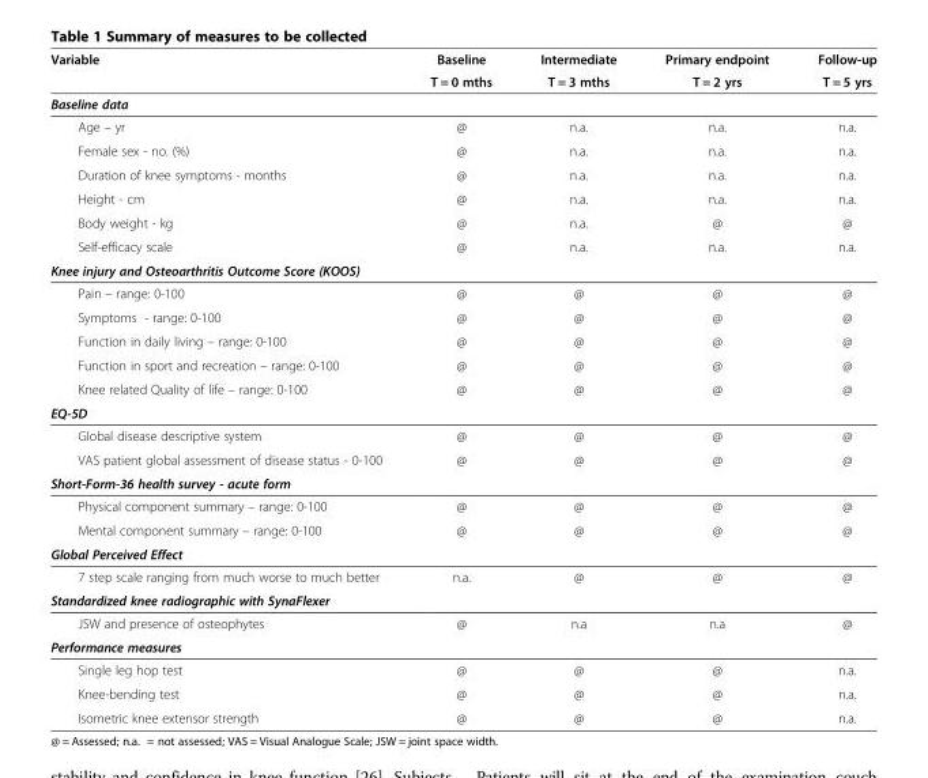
<table><thead><tr><td rowspan="2">Variable</td><td rowspan="2">Baseline T = 0 mths</td><td rowspan="2">Intermediate T = 3 mths</td><td rowspan="2">Primary endpoint T = 2 yrs</td><td rowspan="2">Follow-up T = 5 yrs</td></tr><tr></tr></thead><tbody><tr><td colspan="5">Baseline data</td></tr><tr><td>Age – yr</td><td>@</td><td>n.a.</td><td>n.a.</td><td>n.a.</td></tr><tr><td>Female sex - no. (%)</td><td>@</td><td>n.a.</td><td>n.a.</td><td>n.a.</td></tr><tr><td>Duration of knee symptoms - months</td><td>@</td><td>n.a.</td><td>n.a.</td><td>n.a.</td></tr><tr><td>Height - cm</td><td>@</td><td>n.a.</td><td>n.a.</td><td>n.a.</td></tr><tr><td>Body weight - kg</td><td>@</td><td>n.a.</td><td>@</td><td>@</td></tr><tr><td>Self-efficacy scale</td><td>@</td><td>n.a.</td><td>n.a.</td><td>n.a.</td></tr><tr><td colspan="5">Knee injury and Osteoarthritis Outcome Score (KOOS)</td></tr><tr><td>Pain – range: 0-100</td><td>@</td><td>@</td><td>@</td><td>@</td></tr><tr><td>Symptoms - range: 0-100</td><td>@</td><td>@</td><td>@</td><td>@</td></tr><tr><td>Function in daily living – range: 0-100</td><td>@</td><td>@</td><td>@</td><td>@</td></tr><tr><td>Function in sport and recreation – range: 0-100</td><td>@</td><td>@</td><td>@</td><td>@</td></tr><tr><td>Knee related Quality of life – range: 0-100</td><td>@</td><td>@</td><td>@</td><td>@</td></tr><tr><td colspan="5">EQ-5D</td></tr><tr><td>Global disease descriptive system</td><td>@</td><td>@</td><td>@</td><td>@</td></tr><tr><td>VAS patient global assessment of disease status - 0-100</td><td>@</td><td>@</td><td>@</td><td>@</td></tr><tr><td colspan="5">Short-Form-36 health survey - acute form</td></tr><tr><td>Physical component summary – range: 0-100</td><td>@</td><td>@</td><td>@</td><td>@</td></tr><tr><td>Mental component summary – range: 0-100</td><td>@</td><td>@</td><td>@</td><td>@</td></tr><tr><td colspan="5">Global Perceived Effect</td></tr><tr><td>7 step scale ranging from much worse to much better</td><td>n.a.</td><td>@</td><td>@</td><td>@</td></tr><tr><td colspan="5">Standardized knee radiographic with SynaFlexer</td></tr><tr><td>JSW and presence of osteophytes</td><td>@</td><td>n.a</td><td>n.a</td><td>@</td></tr><tr><td colspan="5">Performance measures</td></tr><tr><td>Single leg hop test</td><td>@</td><td>@</td><td>@</td><td>n.a.</td></tr><tr><td>Knee-bending test</td><td>@</td><td>@</td><td>@</td><td>n.a.</td></tr><tr><td>Isometric knee extensor strength</td><td>@</td><td>@</td><td>@</td><td>n.a.</td></tr></tbody></table>